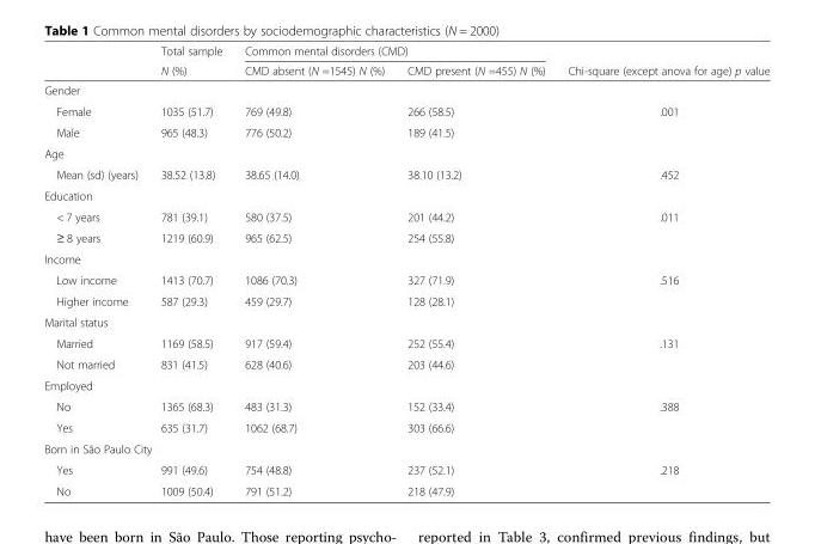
<table><thead><tr><td rowspan="2"></td><td rowspan="2">Total sample N (%)</td><td colspan="2">Common mental disorders (CMD)</td><td rowspan="2">Chi-square (except anova for age) p value</td></tr><tr><td>CMD absent (N =1545) N (%)</td><td>CMD present (N =455) N (%)</td></tr></thead><tbody><tr><td colspan="5">Gender</td></tr><tr><td>Female</td><td>1035 (51.7)</td><td>769 (49.8)</td><td>266 (58.5)</td><td>.001</td></tr><tr><td>Male</td><td>965 (48.3)</td><td>776 (50.2)</td><td>189 (41.5)</td><td></td></tr><tr><td colspan="5">Age</td></tr><tr><td>Mean (sd) (years)</td><td>38.52 (13.8)</td><td>38.65 (14.0)</td><td>38.10 (13.2)</td><td>.452</td></tr><tr><td colspan="5">Education</td></tr><tr><td>&lt; 7 years</td><td>781 (39.1)</td><td>580 (37.5)</td><td>201 (44.2)</td><td>.011</td></tr><tr><td>≥ 8 years</td><td>1219 (60.9)</td><td>965 (62.5)</td><td>254 (55.8)</td><td></td></tr><tr><td colspan="5">Income</td></tr><tr><td>Low income</td><td>1413 (70.7)</td><td>1086 (70.3)</td><td>327 (71.9)</td><td>.516</td></tr><tr><td>Higher income</td><td>587 (29.3)</td><td>459 (29.7)</td><td>128 (28.1)</td><td></td></tr><tr><td colspan="5">Marital status</td></tr><tr><td>Married</td><td>1169 (58.5)</td><td>917 (59.4)</td><td>252 (55.4)</td><td>.131</td></tr><tr><td>Not married</td><td>831 (41.5)</td><td>628 (40.6)</td><td>203 (44.6)</td><td></td></tr><tr><td colspan="5">Employed</td></tr><tr><td>No</td><td>1365 (68.3)</td><td>483 (31.3)</td><td>152 (33.4)</td><td>.388</td></tr><tr><td>Yes</td><td>635 (31.7)</td><td>1062 (68.7)</td><td>303 (66.6)</td><td></td></tr><tr><td colspan="5">Born in São Paulo City</td></tr><tr><td>Yes</td><td>991 (49.6)</td><td>754 (48.8)</td><td>237 (52.1)</td><td>.218</td></tr><tr><td>No</td><td>1009 (50.4)</td><td>791 (51.2)</td><td>218 (47.9)</td><td></td></tr></tbody></table>